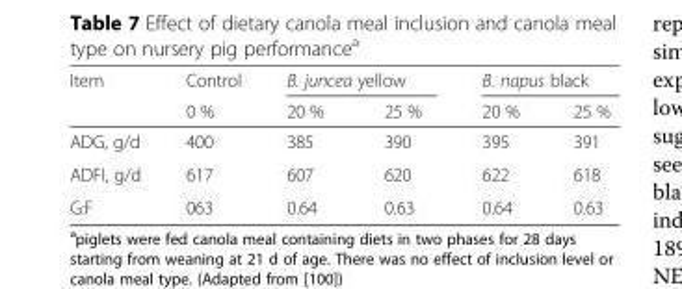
<table><thead><tr><td rowspan="2">Item</td><td rowspan="2">Control 0 %</td><td colspan="2">B. juncea yellow</td><td colspan="2">B. napus black</td></tr><tr><td>20 %</td><td>25 %</td><td>20 %</td><td>25 %</td></tr></thead><tbody><tr><td>ADG, g/d</td><td>400</td><td>385</td><td>390</td><td>395</td><td>391</td></tr><tr><td>ADFI, g/d</td><td>617</td><td>607</td><td>620</td><td>622</td><td>618</td></tr><tr><td>G:F</td><td>063</td><td>0.64</td><td>0.63</td><td>0.64</td><td>0.63</td></tr></tbody></table>